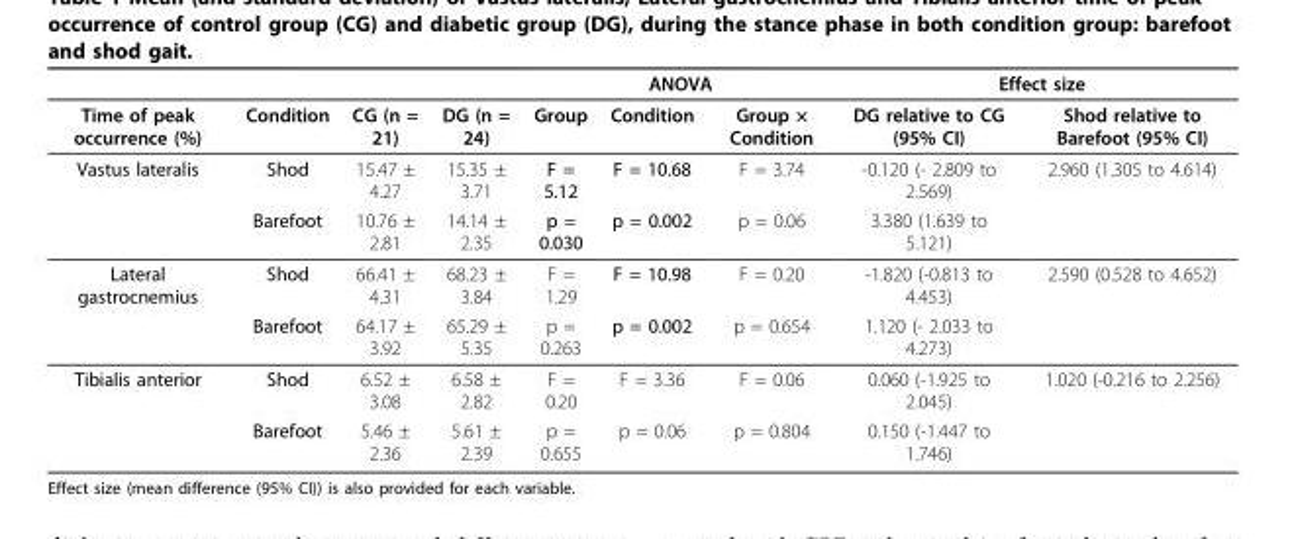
<table><thead><tr><td rowspan="2">Time of peak occurrence (%)</td><td rowspan="2">Condition</td><td rowspan="2">CG (n = 21)</td><td rowspan="2">DG (n = 24)</td><td colspan="3">ANOVA</td><td colspan="2">Effect size</td></tr><tr><td>Group</td><td>Condition</td><td>Group × Condition</td><td>DG relative to CG (95% CI)</td><td>Shod relative to Barefoot (95% CI)</td></tr></thead><tbody><tr><td rowspan="2">Vastus lateralis</td><td>Shod</td><td>15.47 ± 4.27</td><td>15.35 ± 3.71</td><td>F = 5.12</td><td>F = 10.68</td><td>F = 3.74</td><td>-0.120 (- 2.809 to 2.569)</td><td>2.960 (1.305 to 4.614)</td></tr><tr><td>Barefoot</td><td>10.76 ± 2.81</td><td>14.14 ± 2.35</td><td>p = 0.030</td><td>p = 0.002</td><td>p = 0.06</td><td>3.380 (1.639 to 5.121)</td><td></td></tr><tr><td rowspan="2">Lateral gastrocnemius</td><td>Shod</td><td>66.41 ± 4.31</td><td>68.23 ± 3.84</td><td>F = 1.29</td><td>F = 10.98</td><td>F = 0.20</td><td>-1.820 (-0.813 to 4.453)</td><td>2.590 (0.528 to 4.652)</td></tr><tr><td>Barefoot</td><td>64.17 ± 3.92</td><td>65.29 ± 5.35</td><td>p = 0.263</td><td>p = 0.002</td><td>p = 0.654</td><td>1.120 (- 2.033 to 4.273)</td><td></td></tr><tr><td rowspan="2">Tibialis anterior</td><td>Shod</td><td>6.52 ± 3.08</td><td>6.58 ± 2.82</td><td>F = 0.20</td><td>F = 3.36</td><td>F = 0.06</td><td>0.060 (-1.925 to 2.045)</td><td>1.020 (-0.216 to 2.256)</td></tr><tr><td>Barefoot</td><td>5.46 ± 2.36</td><td>5.61 ± 2.39</td><td>p = 0.655</td><td>p = 0.06</td><td>p = 0.804</td><td>0.150 (-1.447 to 1.746)</td><td></td></tr></tbody></table>